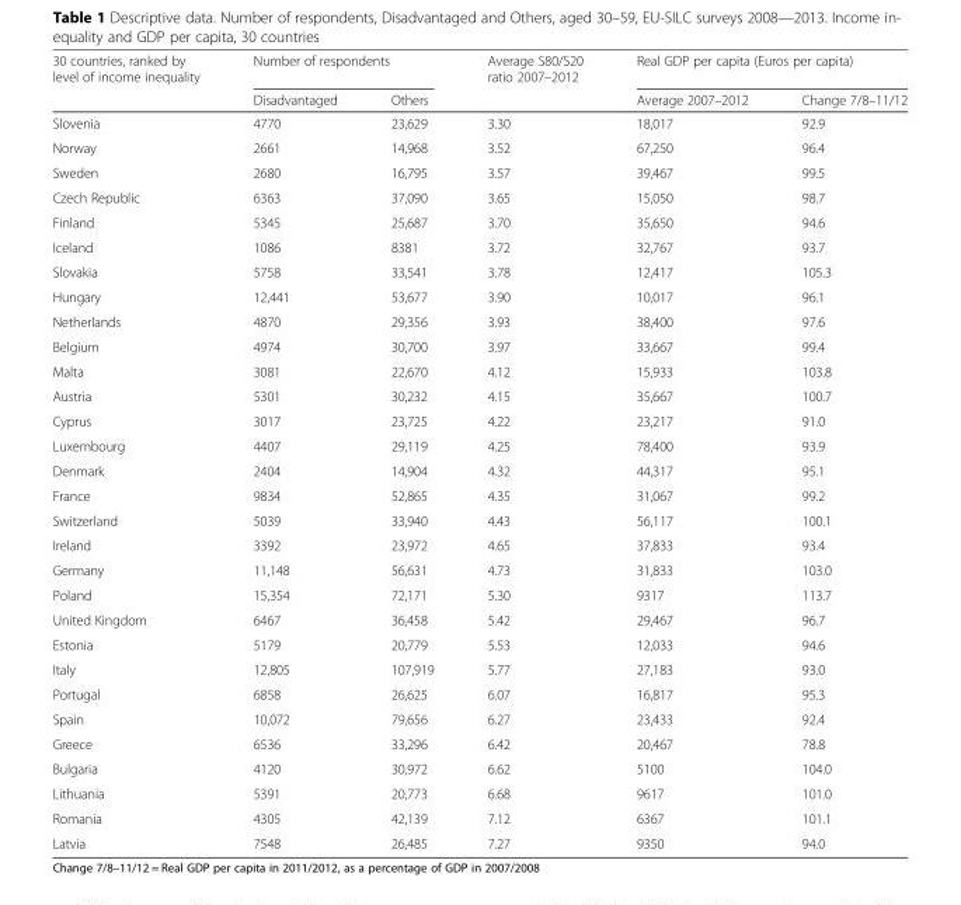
<table><thead><tr><td rowspan="2">30 countries, ranked by level of income inequality</td><td colspan="2">Number of respondents</td><td rowspan="2">Average S80/S20 ratio 2007–2012</td><td colspan="2">Real GDP per capita (Euros per capita)</td></tr><tr><td>Disadvantaged</td><td>Others</td><td>Average 2007–2012</td><td>Change 7/8–11/12</td></tr></thead><tbody><tr><td>Slovenia</td><td>4770</td><td>23,629</td><td>3.30</td><td>18,017</td><td>92.9</td></tr><tr><td>Norway</td><td>2661</td><td>14,968</td><td>3.52</td><td>67,250</td><td>96.4</td></tr><tr><td>Sweden</td><td>2680</td><td>16,795</td><td>3.57</td><td>39,467</td><td>99.5</td></tr><tr><td>Czech Republic</td><td>6363</td><td>37,090</td><td>3.65</td><td>15,050</td><td>98.7</td></tr><tr><td>Finland</td><td>5345</td><td>25,687</td><td>3.70</td><td>35,650</td><td>94.6</td></tr><tr><td>Iceland</td><td>1086</td><td>8381</td><td>3.72</td><td>32,767</td><td>93.7</td></tr><tr><td>Slovakia</td><td>5758</td><td>33,541</td><td>3.78</td><td>12,417</td><td>105.3</td></tr><tr><td>Hungary</td><td>12,441</td><td>53,677</td><td>3.90</td><td>10,017</td><td>96.1</td></tr><tr><td>Netherlands</td><td>4870</td><td>29,356</td><td>3.93</td><td>38,400</td><td>97.6</td></tr><tr><td>Belgium</td><td>4974</td><td>30,700</td><td>3.97</td><td>33,667</td><td>99.4</td></tr><tr><td>Malta</td><td>3081</td><td>22,670</td><td>4.12</td><td>15,933</td><td>103.8</td></tr><tr><td>Austria</td><td>5301</td><td>30,232</td><td>4.15</td><td>35,667</td><td>100.7</td></tr><tr><td>Cyprus</td><td>3017</td><td>23,725</td><td>4.22</td><td>23,217</td><td>91.0</td></tr><tr><td>Luxembourg</td><td>4407</td><td>29,119</td><td>4.25</td><td>78,400</td><td>93.9</td></tr><tr><td>Denmark</td><td>2404</td><td>14,904</td><td>4.32</td><td>44,317</td><td>95.1</td></tr><tr><td>France</td><td>9834</td><td>52,865</td><td>4.35</td><td>31,067</td><td>99.2</td></tr><tr><td>Switzerland</td><td>5039</td><td>33,940</td><td>4.43</td><td>56,117</td><td>100.1</td></tr><tr><td>Ireland</td><td>3392</td><td>23,972</td><td>4.65</td><td>37,833</td><td>93.4</td></tr><tr><td>Germany</td><td>11,148</td><td>56,631</td><td>4.73</td><td>31,833</td><td>103.0</td></tr><tr><td>Poland</td><td>15,354</td><td>72,171</td><td>5.30</td><td>9317</td><td>113.7</td></tr><tr><td>United Kingdom</td><td>6467</td><td>36,458</td><td>5.42</td><td>29,467</td><td>96.7</td></tr><tr><td>Estonia</td><td>5179</td><td>20,779</td><td>5.53</td><td>12,033</td><td>94.6</td></tr><tr><td>Italy</td><td>12,805</td><td>107,919</td><td>5.77</td><td>27,183</td><td>93.0</td></tr><tr><td>Portugal</td><td>6858</td><td>26,625</td><td>6.07</td><td>16,817</td><td>95.3</td></tr><tr><td>Spain</td><td>10,072</td><td>79,656</td><td>6.27</td><td>23,433</td><td>92.4</td></tr><tr><td>Greece</td><td>6536</td><td>33,296</td><td>6.42</td><td>20,467</td><td>78.8</td></tr><tr><td>Bulgaria</td><td>4120</td><td>30,972</td><td>6.62</td><td>5100</td><td>104.0</td></tr><tr><td>Lithuania</td><td>5391</td><td>20,773</td><td>6.68</td><td>9617</td><td>101.0</td></tr><tr><td>Romania</td><td>4305</td><td>42,139</td><td>7.12</td><td>6367</td><td>101.1</td></tr><tr><td>Latvia</td><td>7548</td><td>26,485</td><td>7.27</td><td>9350</td><td>94.0</td></tr></tbody></table>